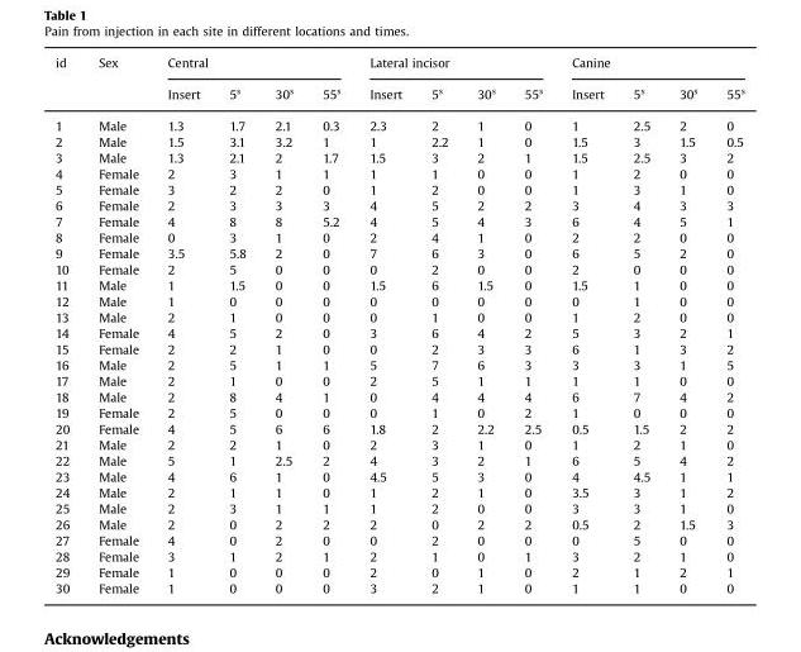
<table><thead><tr><td rowspan="2">id</td><td rowspan="2">Sex</td><td colspan="4">Central</td><td colspan="4">Lateral incisor</td><td colspan="4">Canine</td></tr><tr><td>Insert</td><td>5<sup>s</sup></td><td>30<sup>s</sup></td><td>55<sup>s</sup></td><td>Insert</td><td>5<sup>s</sup></td><td>30<sup>s</sup></td><td>55<sup>s</sup></td><td>Insert</td><td>5<sup>s</sup></td><td>30<sup>s</sup></td><td>55<sup>s</sup></td></tr></thead><tbody><tr><td>1</td><td>Male</td><td>1.3</td><td>1.7</td><td>2.1</td><td>0.3</td><td>2.3</td><td>2</td><td>1</td><td>0</td><td>1</td><td>2.5</td><td>2</td><td>0</td></tr><tr><td>2</td><td>Male</td><td>1.5</td><td>3.1</td><td>3.2</td><td>1</td><td>1</td><td>2.2</td><td>1</td><td>0</td><td>1.5</td><td>3</td><td>1.5</td><td>0.5</td></tr><tr><td>3</td><td>Male</td><td>1.3</td><td>2.1</td><td>2</td><td>1.7</td><td>1.5</td><td>3</td><td>2</td><td>1</td><td>1.5</td><td>2.5</td><td>3</td><td>2</td></tr><tr><td>4</td><td>Female</td><td>2</td><td>3</td><td>1</td><td>1</td><td>1</td><td>1</td><td>0</td><td>0</td><td>1</td><td>2</td><td>0</td><td>0</td></tr><tr><td>5</td><td>Female</td><td>3</td><td>2</td><td>2</td><td>0</td><td>1</td><td>2</td><td>0</td><td>0</td><td>1</td><td>3</td><td>1</td><td>0</td></tr><tr><td>6</td><td>Female</td><td>2</td><td>3</td><td>3</td><td>3</td><td>4</td><td>5</td><td>2</td><td>2</td><td>3</td><td>4</td><td>3</td><td>3</td></tr><tr><td>7</td><td>Female</td><td>4</td><td>8</td><td>8</td><td>5.2</td><td>4</td><td>5</td><td>4</td><td>3</td><td>6</td><td>4</td><td>5</td><td>1</td></tr><tr><td>8</td><td>Female</td><td>0</td><td>3</td><td>1</td><td>0</td><td>2</td><td>4</td><td>1</td><td>0</td><td>2</td><td>2</td><td>0</td><td>0</td></tr><tr><td>9</td><td>Female</td><td>3.5</td><td>5.8</td><td>2</td><td>0</td><td>7</td><td>6</td><td>3</td><td>0</td><td>6</td><td>5</td><td>2</td><td>0</td></tr><tr><td>10</td><td>Female</td><td>2</td><td>5</td><td>0</td><td>0</td><td>0</td><td>2</td><td>0</td><td>0</td><td>2</td><td>0</td><td>0</td><td>0</td></tr><tr><td>11</td><td>Male</td><td>1</td><td>1.5</td><td>0</td><td>0</td><td>1.5</td><td>6</td><td>1.5</td><td>0</td><td>1.5</td><td>1</td><td>0</td><td>0</td></tr><tr><td>12</td><td>Male</td><td>1</td><td>0</td><td>0</td><td>0</td><td>0</td><td>0</td><td>0</td><td>0</td><td>0</td><td>1</td><td>0</td><td>0</td></tr><tr><td>13</td><td>Male</td><td>2</td><td>1</td><td>0</td><td>0</td><td>0</td><td>1</td><td>0</td><td>0</td><td>1</td><td>2</td><td>0</td><td>0</td></tr><tr><td>14</td><td>Female</td><td>4</td><td>5</td><td>2</td><td>0</td><td>3</td><td>6</td><td>4</td><td>2</td><td>5</td><td>3</td><td>2</td><td>1</td></tr><tr><td>15</td><td>Female</td><td>2</td><td>2</td><td>1</td><td>0</td><td>0</td><td>2</td><td>3</td><td>3</td><td>6</td><td>1</td><td>3</td><td>2</td></tr><tr><td>16</td><td>Male</td><td>2</td><td>5</td><td>1</td><td>1</td><td>5</td><td>7</td><td>6</td><td>3</td><td>3</td><td>3</td><td>1</td><td>5</td></tr><tr><td>17</td><td>Male</td><td>2</td><td>1</td><td>0</td><td>0</td><td>2</td><td>5</td><td>1</td><td>1</td><td>1</td><td>1</td><td>0</td><td>0</td></tr><tr><td>18</td><td>Male</td><td>2</td><td>8</td><td>4</td><td>1</td><td>0</td><td>4</td><td>4</td><td>4</td><td>6</td><td>7</td><td>4</td><td>2</td></tr><tr><td>19</td><td>Female</td><td>2</td><td>5</td><td>0</td><td>0</td><td>0</td><td>1</td><td>0</td><td>2</td><td>1</td><td>0</td><td>0</td><td>0</td></tr><tr><td>20</td><td>Female</td><td>4</td><td>5</td><td>6</td><td>6</td><td>1.8</td><td>2</td><td>2.2</td><td>2.5</td><td>0.5</td><td>1.5</td><td>2</td><td>2</td></tr><tr><td>21</td><td>Male</td><td>2</td><td>2</td><td>1</td><td>0</td><td>2</td><td>3</td><td>1</td><td>0</td><td>1</td><td>2</td><td>1</td><td>0</td></tr><tr><td>22</td><td>Male</td><td>5</td><td>1</td><td>2.5</td><td>2</td><td>4</td><td>3</td><td>2</td><td>1</td><td>6</td><td>5</td><td>4</td><td>2</td></tr><tr><td>23</td><td>Male</td><td>4</td><td>6</td><td>1</td><td>0</td><td>4.5</td><td>5</td><td>3</td><td>0</td><td>4</td><td>4.5</td><td>1</td><td>1</td></tr><tr><td>24</td><td>Male</td><td>2</td><td>1</td><td>1</td><td>0</td><td>1</td><td>2</td><td>1</td><td>0</td><td>3.5</td><td>3</td><td>1</td><td>2</td></tr><tr><td>25</td><td>Male</td><td>2</td><td>3</td><td>1</td><td>1</td><td>1</td><td>2</td><td>0</td><td>0</td><td>3</td><td>3</td><td>1</td><td>0</td></tr><tr><td>26</td><td>Male</td><td>2</td><td>0</td><td>2</td><td>2</td><td>2</td><td>0</td><td>2</td><td>2</td><td>0.5</td><td>2</td><td>1.5</td><td>3</td></tr><tr><td>27</td><td>Female</td><td>4</td><td>0</td><td>2</td><td>0</td><td>0</td><td>2</td><td>0</td><td>0</td><td>0</td><td>5</td><td>0</td><td>0</td></tr><tr><td>28</td><td>Female</td><td>3</td><td>1</td><td>2</td><td>1</td><td>2</td><td>1</td><td>0</td><td>1</td><td>3</td><td>2</td><td>1</td><td>0</td></tr><tr><td>29</td><td>Female</td><td>1</td><td>0</td><td>0</td><td>0</td><td>2</td><td>0</td><td>1</td><td>0</td><td>2</td><td>1</td><td>2</td><td>1</td></tr><tr><td>30</td><td>Female</td><td>1</td><td>0</td><td>0</td><td>0</td><td>3</td><td>2</td><td>1</td><td>0</td><td>1</td><td>1</td><td>0</td><td>0</td></tr></tbody></table>